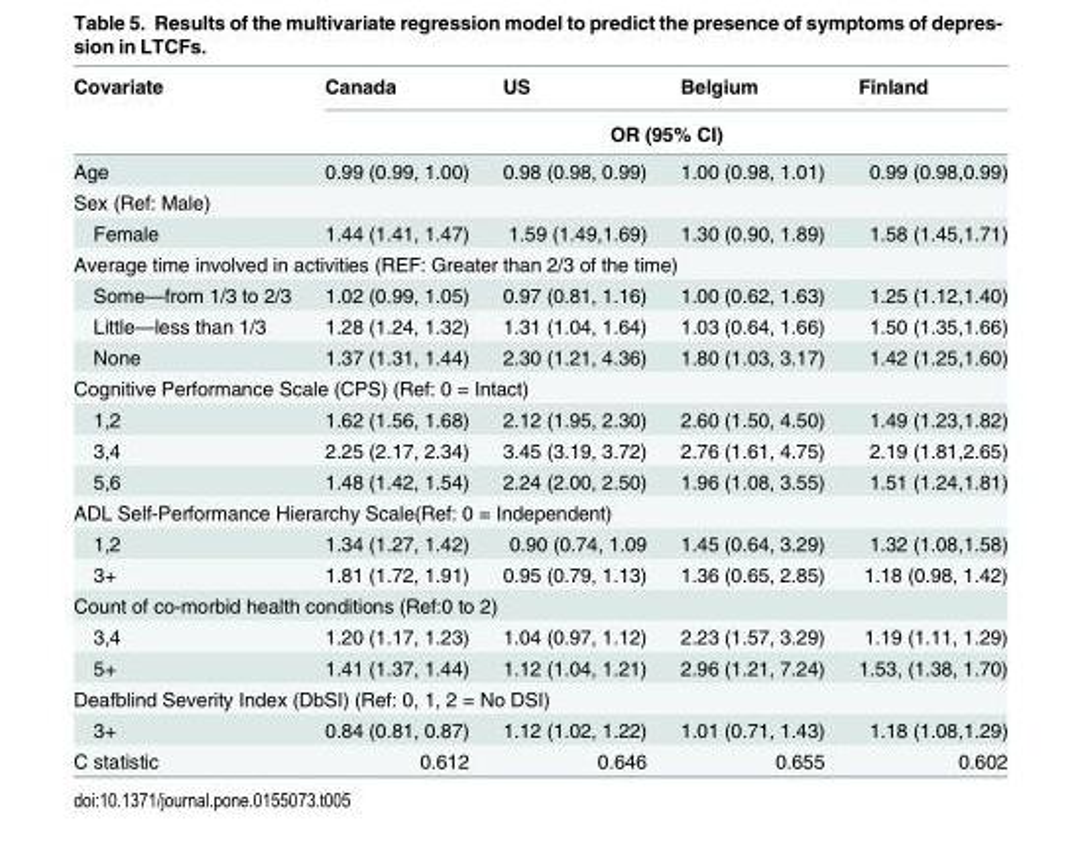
<table><thead><tr><td rowspan="2">Covariate</td><td>Canada</td><td>US</td><td>Belgium</td><td>Finland</td></tr><tr><td colspan="4">OR (95% CI)</td></tr></thead><tbody><tr><td>Age</td><td>0.99 (0.99, 1.00)</td><td>0.98 (0.98, 0.99)</td><td>1.00 (0.98, 1.01)</td><td>0.99 (0.98,0.99)</td></tr><tr><td colspan="5">Sex (Ref: Male)</td></tr><tr><td>Female</td><td>1.44 (1.41, 1.47)</td><td>1.59 (1.49,1.69)</td><td>1.30 (0.90, 1.89)</td><td>1.58 (1.45,1.71)</td></tr><tr><td colspan="5">Average time involved in activities (REF: Greater than 2/3 of the time)</td></tr><tr><td>Some—from 1/3 to 2/3</td><td>1.02 (0.99, 1.05)</td><td>0.97 (0.81, 1.16)</td><td>1.00 (0.62, 1.63)</td><td>1.25 (1.12,1.40)</td></tr><tr><td>Little—less than 1/3</td><td>1.28 (1.24, 1.32)</td><td>1.31 (1.04, 1.64)</td><td>1.03 (0.64, 1.66)</td><td>1.50 (1.35,1.66)</td></tr><tr><td>None</td><td>1.37 (1.31, 1.44)</td><td>2.30 (1.21, 4.36)</td><td>1.80 (1.03, 3.17)</td><td>1.42 (1.25,1.60)</td></tr><tr><td colspan="5">Cognitive Performance Scale (CPS) (Ref: 0 = Intact)</td></tr><tr><td>1,2</td><td>1.62 (1.56, 1.68)</td><td>2.12 (1.95, 2.30)</td><td>2.60 (1.50, 4.50)</td><td>1.49 (1.23,1.82)</td></tr><tr><td>3,4</td><td>2.25 (2.17, 2.34)</td><td>3.45 (3.19, 3.72)</td><td>2.76 (1.61, 4.75)</td><td>2.19 (1.81,2.65)</td></tr><tr><td>5,6</td><td>1.48 (1.42, 1.54)</td><td>2.24 (2.00, 2.50)</td><td>1.96 (1.08, 3.55)</td><td>1.51 (1.24,1.81)</td></tr><tr><td colspan="5">ADL Self-Performance Hierarchy Scale(Ref: 0 = Independent)</td></tr><tr><td>1,2</td><td>1.34 (1.27, 1.42)</td><td>0.90 (0.74, 1.09</td><td>1.45 (0.64, 3.29)</td><td>1.32 (1.08,1.58)</td></tr><tr><td>3+</td><td>1.81 (1.72, 1.91)</td><td>0.95 (0.79, 1.13)</td><td>1.36 (0.65, 2.85)</td><td>1.18 (0.98, 1.42)</td></tr><tr><td colspan="5">Count of co-morbid health conditions (Ref:0 to 2)</td></tr><tr><td>3,4</td><td>1.20 (1.17, 1.23)</td><td>1.04 (0.97, 1.12)</td><td>2.23 (1.57, 3.29)</td><td>1.19 (1.11, 1.29)</td></tr><tr><td>5+</td><td>1.41 (1.37, 1.44)</td><td>1.12 (1.04, 1.21)</td><td>2.96 (1.21, 7.24)</td><td>1.53, (1.38, 1.70)</td></tr><tr><td colspan="5">Deafblind Severity Index (DbSI) (Ref: 0, 1, 2 = No DSI)</td></tr><tr><td>3+</td><td>0.84 (0.81, 0.87)</td><td>1.12 (1.02, 1.22)</td><td>1.01 (0.71, 1.43)</td><td>1.18 (1.08,1.29)</td></tr><tr><td>C statistic</td><td>0.612</td><td>0.646</td><td>0.655</td><td>0.602</td></tr></tbody></table>